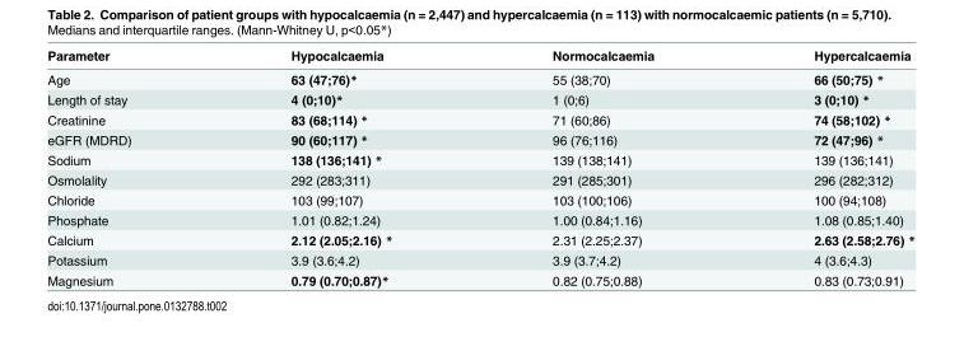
<table><thead><tr><td>Parameter</td><td>Hypocalcaemia</td><td>Normocalcaemia</td><td>Hypercalcaemia</td></tr></thead><tbody><tr><td>Age</td><td>63 (47;76)*</td><td>55 (38;70)</td><td>66 (50;75) *</td></tr><tr><td>Length of stay</td><td>4 (0;10)*</td><td>1 (0;6)</td><td>3 (0;10) *</td></tr><tr><td>Creatinine</td><td>83 (68;114) *</td><td>71 (60;86)</td><td>74 (58;102) *</td></tr><tr><td>eGFR (MDRD)</td><td>90 (60;117) *</td><td>96 (76;116)</td><td>72 (47;96) *</td></tr><tr><td>Sodium</td><td>138 (136;141) *</td><td>139 (138;141)</td><td>139 (136;141)</td></tr><tr><td>Osmolality</td><td>292 (283;311)</td><td>291 (285;301)</td><td>296 (282;312)</td></tr><tr><td>Chloride</td><td>103 (99;107)</td><td>103 (100;106)</td><td>100 (94;108)</td></tr><tr><td>Phosphate</td><td>1.01 (0.82;1.24)</td><td>1.00 (0.84;1.16)</td><td>1.08 (0.85;1.40)</td></tr><tr><td>Calcium</td><td>2.12 (2.05;2.16) *</td><td>2.31 (2.25;2.37)</td><td>2.63 (2.58;2.76) *</td></tr><tr><td>Potassium</td><td>3.9 (3.6;4.2)</td><td>3.9 (3.7;4.2)</td><td>4 (3.6;4.3)</td></tr><tr><td>Magnesium</td><td>0.79 (0.70;0.87)*</td><td>0.82 (0.75;0.88)</td><td>0.83 (0.73;0.91)</td></tr></tbody></table>